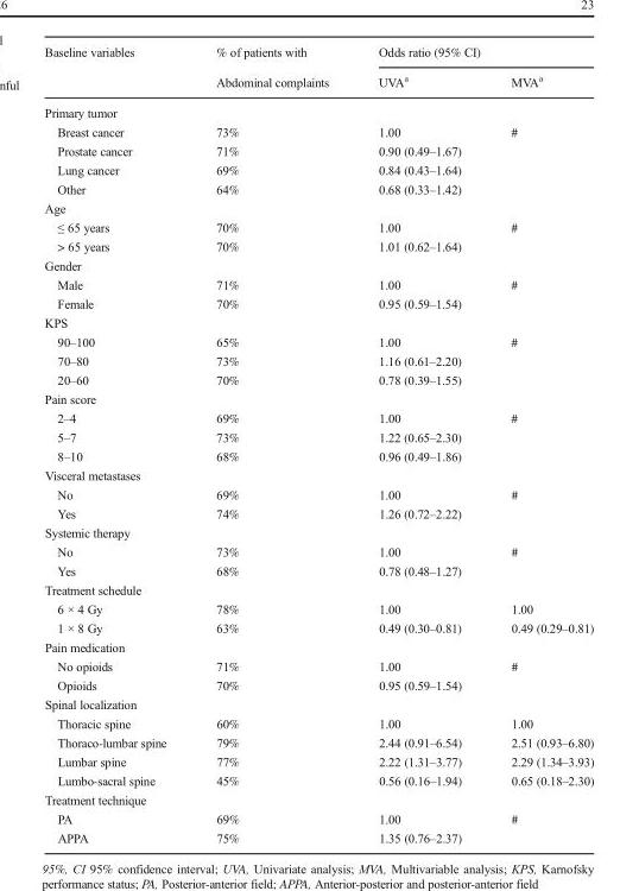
<table><thead><tr><td rowspan="2">Baseline variables</td><td rowspan="2">% of patients with Abdominal complaints</td><td colspan="2">Odds ratio (95% CI)</td></tr><tr><td>UVA<sup>a</sup></td><td>MVA<sup>a</sup></td></tr></thead><tbody><tr><td colspan="4">Primary tumor</td></tr><tr><td>Breast cancer</td><td>73%</td><td>1.00</td><td>#</td></tr><tr><td>Prostate cancer</td><td>71%</td><td>0.90 (0.49–1.67)</td><td></td></tr><tr><td>Lung cancer</td><td>69%</td><td>0.84 (0.43–1.64)</td><td></td></tr><tr><td>Other</td><td>64%</td><td>0.68 (0.33–1.42)</td><td></td></tr><tr><td colspan="4">Age</td></tr><tr><td>≤ 65 years</td><td>70%</td><td>1.00</td><td>#</td></tr><tr><td>&gt; 65 years</td><td>70%</td><td>1.01 (0.62–1.64)</td><td></td></tr><tr><td colspan="4">Gender</td></tr><tr><td>Male</td><td>71%</td><td>1.00</td><td>#</td></tr><tr><td>Female</td><td>70%</td><td>0.95 (0.59–1.54)</td><td></td></tr><tr><td colspan="4">KPS</td></tr><tr><td>90–100</td><td>65%</td><td>1.00</td><td>#</td></tr><tr><td>70–80</td><td>73%</td><td>1.16 (0.61–2.20)</td><td></td></tr><tr><td>20–60</td><td>70%</td><td>0.78 (0.39–1.55)</td><td></td></tr><tr><td colspan="4">Pain score</td></tr><tr><td>2–4</td><td>69%</td><td>1.00</td><td>#</td></tr><tr><td>5–7</td><td>73%</td><td>1.22 (0.65–2.30)</td><td></td></tr><tr><td>8–10</td><td>68%</td><td>0.96 (0.49–1.86)</td><td></td></tr><tr><td colspan="4">Visceral metastases</td></tr><tr><td>No</td><td>69%</td><td>1.00</td><td>#</td></tr><tr><td>Yes</td><td>74%</td><td>1.26 (0.72–2.22)</td><td></td></tr><tr><td colspan="4">Systemic therapy</td></tr><tr><td>No</td><td>73%</td><td>1.00</td><td>#</td></tr><tr><td>Yes</td><td>68%</td><td>0.78 (0.48–1.27)</td><td></td></tr><tr><td colspan="4">Treatment schedule</td></tr><tr><td>6 × 4 Gy</td><td>78%</td><td>1.00</td><td>1.00</td></tr><tr><td>1 × 8 Gy</td><td>63%</td><td>0.49 (0.30–0.81)</td><td>0.49 (0.29–0.81)</td></tr><tr><td colspan="4">Pain medication</td></tr><tr><td>No opioids</td><td>71%</td><td>1.00</td><td>#</td></tr><tr><td>Opioids</td><td>70%</td><td>0.95 (0.59–1.54)</td><td></td></tr><tr><td colspan="4">Spinal localization</td></tr><tr><td>Thoracic spine</td><td>60%</td><td>1.00</td><td>1.00</td></tr><tr><td>Thoraco-lumbar spine</td><td>79%</td><td>2.44 (0.91–6.54)</td><td>2.51 (0.93–6.80)</td></tr><tr><td>Lumbar spine</td><td>77%</td><td>2.22 (1.31–3.77)</td><td>2.29 (1.34–3.93)</td></tr><tr><td>Lumbo-sacral spine</td><td>45%</td><td>0.56 (0.16–1.94)</td><td>0.65 (0.18–2.30)</td></tr><tr><td colspan="4">Treatment technique</td></tr><tr><td>PA</td><td>69%</td><td>1.00</td><td>#</td></tr><tr><td>APPA</td><td>75%</td><td>1.35 (0.76–2.37)</td><td></td></tr></tbody></table>